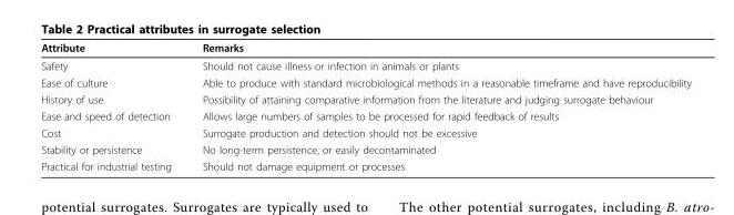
<table><thead><tr><td>Attribute</td><td>Remarks</td></tr></thead><tbody><tr><td>Safety</td><td>Should not cause illness or infection in animals or plants</td></tr><tr><td>Ease of culture</td><td>Able to produce with standard microbiological methods in a reasonable timeframe and have reproducibility</td></tr><tr><td>History of use</td><td>Possibility of attaining comparative information from the literature and judging surrogate behaviour</td></tr><tr><td>Ease and speed of detection</td><td>Allows large numbers of samples to be processed for rapid feedback of results</td></tr><tr><td>Cost</td><td>Surrogate production and detection should not be excessive</td></tr><tr><td>Stability or persistence</td><td>No long-term persistence, or easily decontaminated</td></tr><tr><td>Practical for industrial testing</td><td>Should not damage equipment or processes</td></tr></tbody></table>